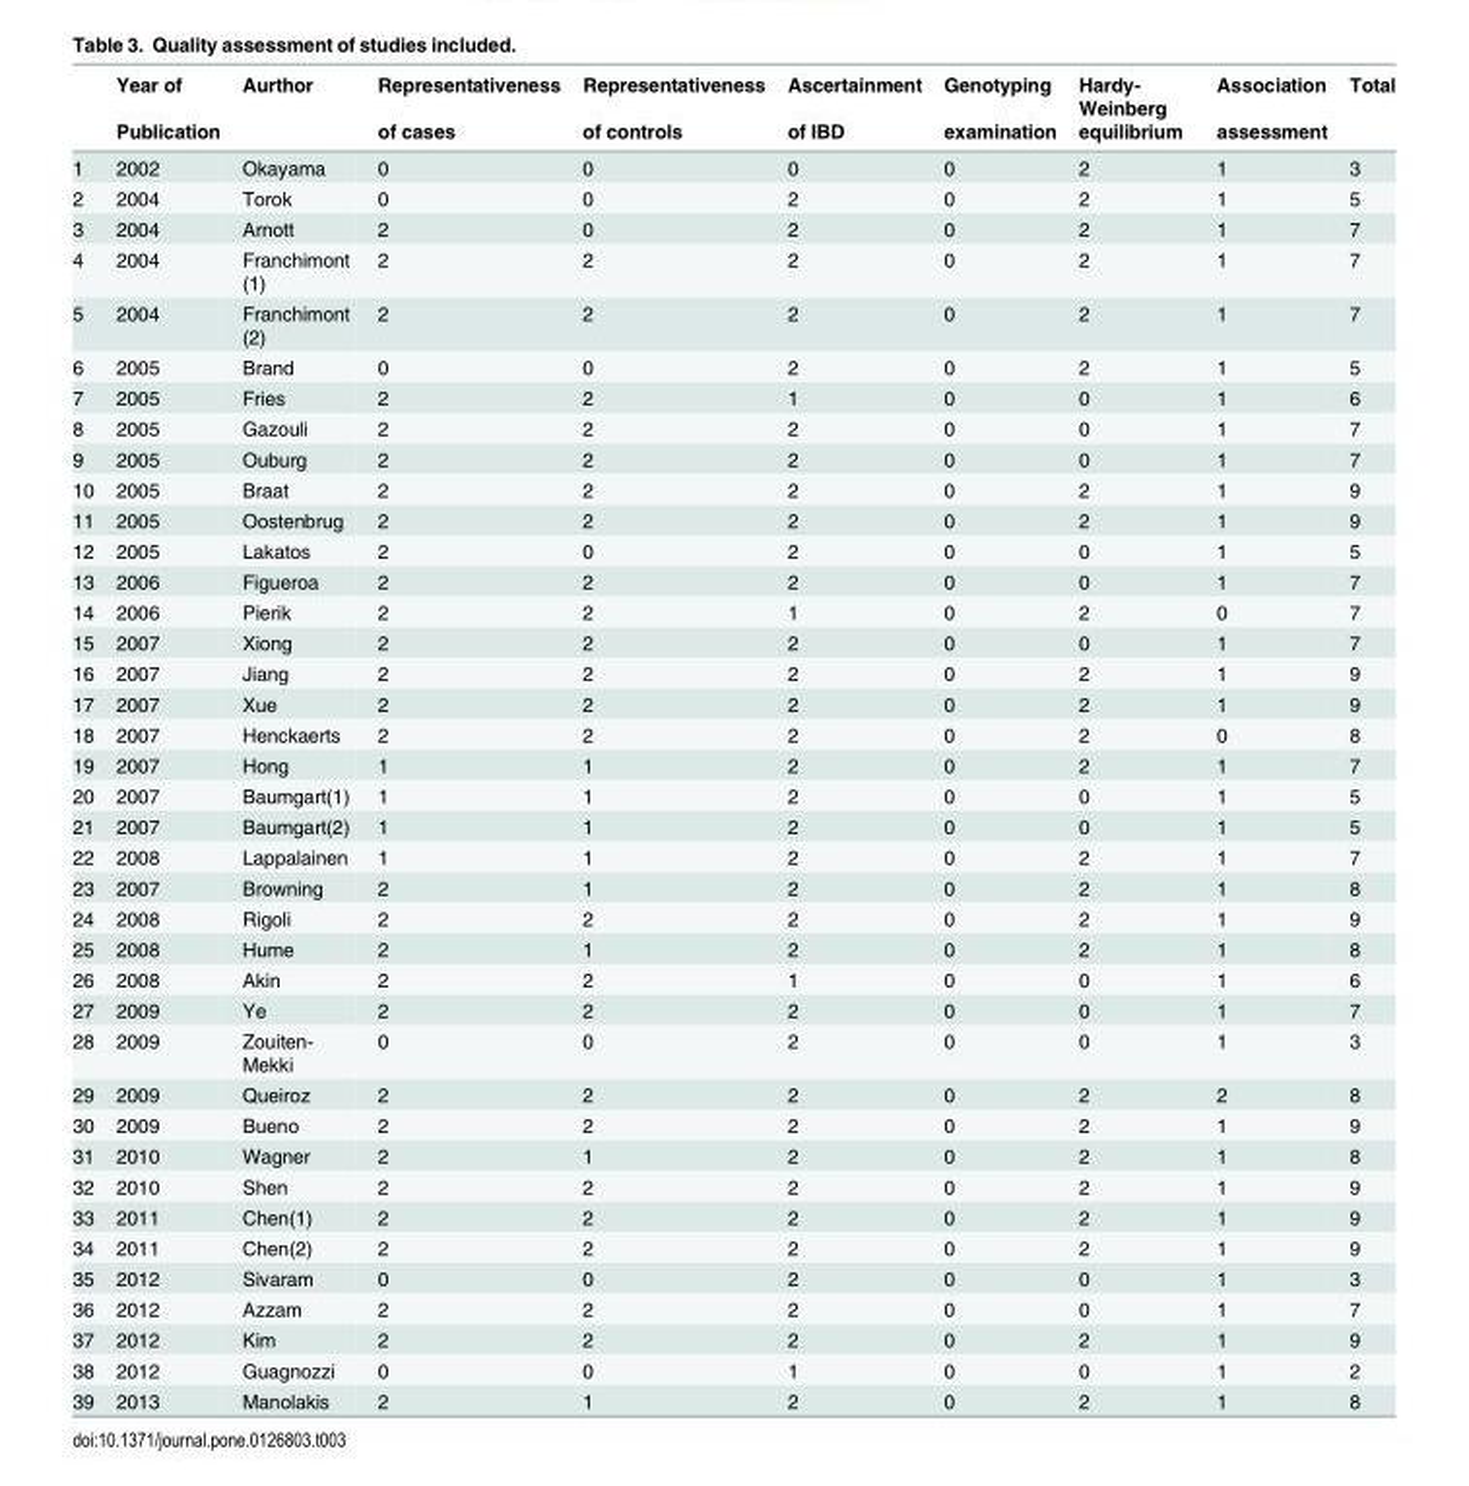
<table><thead><tr><td rowspan="2"></td><td rowspan="2">Year of Publication</td><td rowspan="2">Aurthor</td><td rowspan="2">Representativeness of cases</td><td rowspan="2">Representativeness of controls</td><td rowspan="2">Ascertainment of IBD</td><td rowspan="2">Genotyping examination</td><td rowspan="2">Hardy- Weinberg equilibrium</td><td rowspan="2">Association assessment</td><td rowspan="2">Total</td></tr><tr></tr></thead><tbody><tr><td>1</td><td>2002</td><td>Okayama</td><td>0</td><td>0</td><td>0</td><td>0</td><td>2</td><td>1</td><td>3</td></tr><tr><td>2</td><td>2004</td><td>Torok</td><td>0</td><td>0</td><td>2</td><td>0</td><td>2</td><td>1</td><td>5</td></tr><tr><td>3</td><td>2004</td><td>Arnott</td><td>2</td><td>0</td><td>2</td><td>0</td><td>2</td><td>1</td><td>7</td></tr><tr><td>4</td><td>2004</td><td>Franchimont (1)</td><td>2</td><td>2</td><td>2</td><td>0</td><td>2</td><td>1</td><td>7</td></tr><tr><td>5</td><td>2004</td><td>Franchimont (2)</td><td>2</td><td>2</td><td>2</td><td>0</td><td>2</td><td>1</td><td>7</td></tr><tr><td>6</td><td>2005</td><td>Brand</td><td>0</td><td>0</td><td>2</td><td>0</td><td>2</td><td>1</td><td>5</td></tr><tr><td>7</td><td>2005</td><td>Fries</td><td>2</td><td>2</td><td>1</td><td>0</td><td>0</td><td>1</td><td>6</td></tr><tr><td>8</td><td>2005</td><td>Gazouli</td><td>2</td><td>2</td><td>2</td><td>0</td><td>0</td><td>1</td><td>7</td></tr><tr><td>9</td><td>2005</td><td>Ouburg</td><td>2</td><td>2</td><td>2</td><td>0</td><td>0</td><td>1</td><td>7</td></tr><tr><td>10</td><td>2005</td><td>Braat</td><td>2</td><td>2</td><td>2</td><td>0</td><td>2</td><td>1</td><td>9</td></tr><tr><td>11</td><td>2005</td><td>Oostenbrug</td><td>2</td><td>2</td><td>2</td><td>0</td><td>2</td><td>1</td><td>9</td></tr><tr><td>12</td><td>2005</td><td>Lakatos</td><td>2</td><td>0</td><td>2</td><td>0</td><td>0</td><td>1</td><td>5</td></tr><tr><td>13</td><td>2006</td><td>Figueroa</td><td>2</td><td>2</td><td>2</td><td>0</td><td>0</td><td>1</td><td>7</td></tr><tr><td>14</td><td>2006</td><td>Pierik</td><td>2</td><td>2</td><td>1</td><td>0</td><td>2</td><td>0</td><td>7</td></tr><tr><td>15</td><td>2007</td><td>Xiong</td><td>2</td><td>2</td><td>2</td><td>0</td><td>0</td><td>1</td><td>7</td></tr><tr><td>16</td><td>2007</td><td>Jiang</td><td>2</td><td>2</td><td>2</td><td>0</td><td>2</td><td>1</td><td>9</td></tr><tr><td>17</td><td>2007</td><td>Xue</td><td>2</td><td>2</td><td>2</td><td>0</td><td>2</td><td>1</td><td>9</td></tr><tr><td>18</td><td>2007</td><td>Henckaerts</td><td>2</td><td>2</td><td>2</td><td>0</td><td>2</td><td>0</td><td>8</td></tr><tr><td>19</td><td>2007</td><td>Hong</td><td>1</td><td>1</td><td>2</td><td>0</td><td>2</td><td>1</td><td>7</td></tr><tr><td>20</td><td>2007</td><td>Baumgart(1)</td><td>1</td><td>1</td><td>2</td><td>0</td><td>0</td><td>1</td><td>5</td></tr><tr><td>21</td><td>2007</td><td>Baumgart(2)</td><td>1</td><td>1</td><td>2</td><td>0</td><td>0</td><td>1</td><td>5</td></tr><tr><td>22</td><td>2008</td><td>Lappalainen</td><td>1</td><td>1</td><td>2</td><td>0</td><td>2</td><td>1</td><td>7</td></tr><tr><td>23</td><td>2007</td><td>Browning</td><td>2</td><td>1</td><td>2</td><td>0</td><td>2</td><td>1</td><td>8</td></tr><tr><td>24</td><td>2008</td><td>Rigoli</td><td>2</td><td>2</td><td>2</td><td>0</td><td>2</td><td>1</td><td>9</td></tr><tr><td>25</td><td>2008</td><td>Hume</td><td>2</td><td>1</td><td>2</td><td>0</td><td>2</td><td>1</td><td>8</td></tr><tr><td>26</td><td>2008</td><td>Akin</td><td>2</td><td>2</td><td>1</td><td>0</td><td>0</td><td>1</td><td>6</td></tr><tr><td>27</td><td>2009</td><td>Ye</td><td>2</td><td>2</td><td>2</td><td>0</td><td>0</td><td>1</td><td>7</td></tr><tr><td>28</td><td>2009</td><td>Zouiten- Mekki</td><td>0</td><td>0</td><td>2</td><td>0</td><td>0</td><td>1</td><td>3</td></tr><tr><td>29</td><td>2009</td><td>Queiroz</td><td>2</td><td>2</td><td>2</td><td>0</td><td>2</td><td>2</td><td>8</td></tr><tr><td>30</td><td>2009</td><td>Bueno</td><td>2</td><td>2</td><td>2</td><td>0</td><td>2</td><td>1</td><td>9</td></tr><tr><td>31</td><td>2010</td><td>Wagner</td><td>2</td><td>1</td><td>2</td><td>0</td><td>2</td><td>1</td><td>8</td></tr><tr><td>32</td><td>2010</td><td>Shen</td><td>2</td><td>2</td><td>2</td><td>0</td><td>2</td><td>1</td><td>9</td></tr><tr><td>33</td><td>2011</td><td>Chen(1)</td><td>2</td><td>2</td><td>2</td><td>0</td><td>2</td><td>1</td><td>9</td></tr><tr><td>34</td><td>2011</td><td>Chen(2)</td><td>2</td><td>2</td><td>2</td><td>0</td><td>2</td><td>1</td><td>9</td></tr><tr><td>35</td><td>2012</td><td>Sivaram</td><td>0</td><td>0</td><td>2</td><td>0</td><td>0</td><td>1</td><td>3</td></tr><tr><td>36</td><td>2012</td><td>Azzam</td><td>2</td><td>2</td><td>2</td><td>0</td><td>0</td><td>1</td><td>7</td></tr><tr><td>37</td><td>2012</td><td>Kim</td><td>2</td><td>2</td><td>2</td><td>0</td><td>2</td><td>1</td><td>9</td></tr><tr><td>38</td><td>2012</td><td>Guagnozzi</td><td>0</td><td>0</td><td>1</td><td>0</td><td>0</td><td>1</td><td>2</td></tr><tr><td>39</td><td>2013</td><td>Manolakis</td><td>2</td><td>1</td><td>2</td><td>0</td><td>2</td><td>1</td><td>8</td></tr></tbody></table>